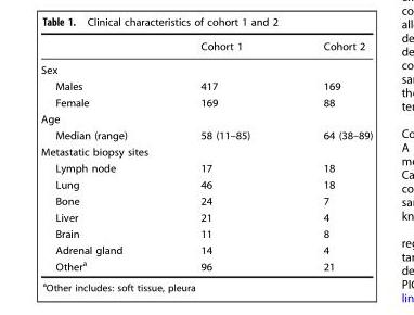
<table><thead><tr><td></td><td>Cohort 1</td><td>Cohort 2</td></tr></thead><tbody><tr><td colspan="3">Sex</td></tr><tr><td>Males</td><td>417</td><td>169</td></tr><tr><td>Female</td><td>169</td><td>88</td></tr><tr><td colspan="3">Age</td></tr><tr><td>Median (range)</td><td>58 (11–85)</td><td>64 (38–89)</td></tr><tr><td colspan="3">Metastatic biopsy sites</td></tr><tr><td>Lymph node</td><td>17</td><td>18</td></tr><tr><td>Lung</td><td>46</td><td>18</td></tr><tr><td>Bone</td><td>24</td><td>7</td></tr><tr><td>Liver</td><td>21</td><td>4</td></tr><tr><td>Brain</td><td>11</td><td>8</td></tr><tr><td>Adrenal gland</td><td>14</td><td>4</td></tr><tr><td>Other<sup>a</sup></td><td>96</td><td>21</td></tr></tbody></table>